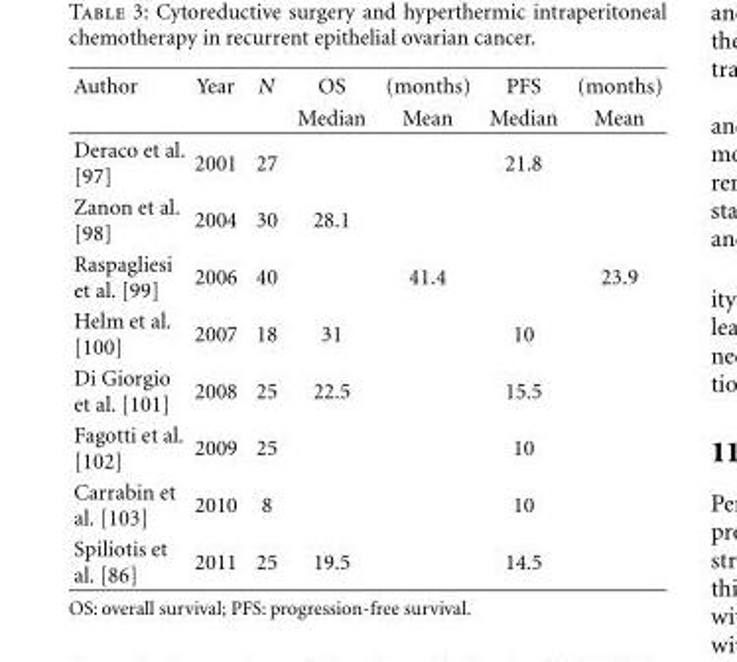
<table><thead><tr><td rowspan="2">Author</td><td rowspan="2">Year</td><td rowspan="2">N</td><td rowspan="2">OS Median</td><td rowspan="2">(months) Mean</td><td rowspan="2">PFS Median</td><td rowspan="2">(months) Mean</td></tr><tr></tr></thead><tbody><tr><td>Deraco et al. [97]</td><td>2001</td><td>27</td><td></td><td></td><td>21.8</td><td></td></tr><tr><td>Zanon et al. [98]</td><td>2004</td><td>30</td><td>28.1</td><td></td><td></td><td></td></tr><tr><td>Raspagliesi et al. [99]</td><td>2006</td><td>40</td><td></td><td>41.4</td><td></td><td>23.9</td></tr><tr><td>Helm et al. [100]</td><td>2007</td><td>18</td><td>31</td><td></td><td>10</td><td></td></tr><tr><td>Di Giorgio et al. [101]</td><td>2008</td><td>25</td><td>22.5</td><td></td><td>15.5</td><td></td></tr><tr><td>Fagotti et al. [102]</td><td>2009</td><td>25</td><td></td><td></td><td>10</td><td></td></tr><tr><td>Carrabin et al. [103]</td><td>2010</td><td>8</td><td></td><td></td><td>10</td><td></td></tr><tr><td>Spiliotis et al. [86]</td><td>2011</td><td>25</td><td>19.5</td><td></td><td>14.5</td><td></td></tr></tbody></table>